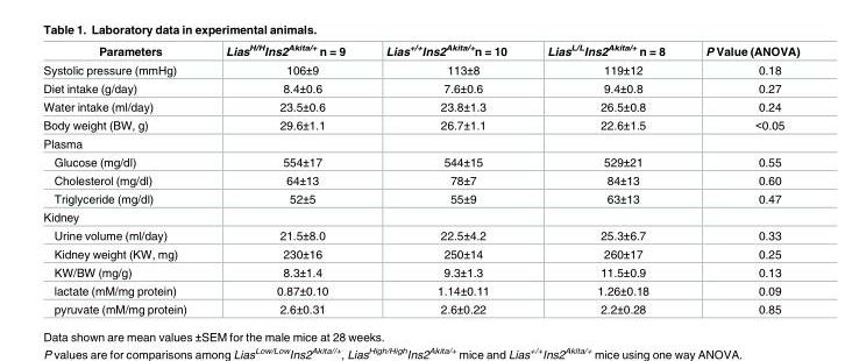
<table><thead><tr><td>Parameters</td><td>Lias<sup>H/H</sup>Ins2<sup>Akita/+</sup> n = 9</td><td>Lias<sup>+/+</sup>Ins2<sup>Akita/+</sup>n = 10</td><td>Lias<sup>L/L</sup>Ins2<sup>Akita/+</sup> n = 8</td><td>P Value (ANOVA)</td></tr></thead><tbody><tr><td>Systolic pressure (mmHg)</td><td>106±9</td><td>113±8</td><td>119±12</td><td>0.18</td></tr><tr><td>Diet intake (g/day)</td><td>8.4±0.6</td><td>7.6±0.6</td><td>9.4±0.8</td><td>0.27</td></tr><tr><td>Water intake (ml/day)</td><td>23.5±0.6</td><td>23.8±1.3</td><td>26.5±0.8</td><td>0.24</td></tr><tr><td>Body weight (BW, g)</td><td>29.6±1.1</td><td>26.7±1.1</td><td>22.6±1.5</td><td>&lt;0.05</td></tr><tr><td colspan="5">Plasma</td></tr><tr><td>Glucose (mg/dl)</td><td>554±17</td><td>544±15</td><td>529±21</td><td>0.55</td></tr><tr><td>Cholesterol (mg/dl)</td><td>64±13</td><td>78±7</td><td>84±13</td><td>0.60</td></tr><tr><td>Triglyceride (mg/dl)</td><td>52±5</td><td>55±9</td><td>63±13</td><td>0.47</td></tr><tr><td colspan="5">Kidney</td></tr><tr><td>Urine volume (ml/day)</td><td>21.5±8.0</td><td>22.5±4.2</td><td>25.3±6.7</td><td>0.33</td></tr><tr><td>Kidney weight (KW, mg)</td><td>230±16</td><td>250±14</td><td>260±17</td><td>0.25</td></tr><tr><td>KW/BW (mg/g)</td><td>8.3±1.4</td><td>9.3±1.3</td><td>11.5±0.9</td><td>0.13</td></tr><tr><td>lactate (mM/mg protein)</td><td>0.87±0.10</td><td>1.14±0.11</td><td>1.26±0.18</td><td>0.09</td></tr><tr><td>pyruvate (mM/mg protein)</td><td>2.6±0.31</td><td>2.6±0.22</td><td>2.2±0.28</td><td>0.85</td></tr></tbody></table>